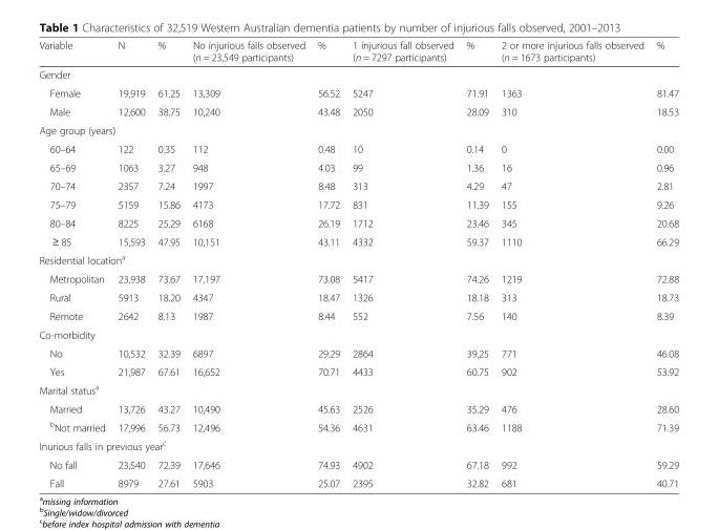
<table><thead><tr><td>Variable</td><td>N</td><td>%</td><td>No injurious falls observed (n = 23,549 participants)</td><td>%</td><td>1 injurious fall observed (n = 7297 participants)</td><td>%</td><td>2 or more injurious falls observed (n = 1673 participants)</td><td>%</td></tr></thead><tbody><tr><td colspan="9">Gender</td></tr><tr><td>Female</td><td>19,919</td><td>61.25</td><td>13,309</td><td>56.52</td><td>5247</td><td>71.91</td><td>1363</td><td>81.47</td></tr><tr><td>Male</td><td>12,600</td><td>38.75</td><td>10,240</td><td>43.48</td><td>2050</td><td>28.09</td><td>310</td><td>18.53</td></tr><tr><td colspan="9">Age group (years)</td></tr><tr><td>60–64</td><td>122</td><td>0.35</td><td>112</td><td>0.48</td><td>10</td><td>0.14</td><td>0</td><td>0.00</td></tr><tr><td>65–69</td><td>1063</td><td>3.27</td><td>948</td><td>4.03</td><td>99</td><td>1.36</td><td>16</td><td>0.96</td></tr><tr><td>70–74</td><td>2357</td><td>7.24</td><td>1997</td><td>8.48</td><td>313</td><td>4.29</td><td>47</td><td>2.81</td></tr><tr><td>75–79</td><td>5159</td><td>15.86</td><td>4173</td><td>17.72</td><td>831</td><td>11.39</td><td>155</td><td>9.26</td></tr><tr><td>80–84</td><td>8225</td><td>25.29</td><td>6168</td><td>26.19</td><td>1712</td><td>23.46</td><td>345</td><td>20.68</td></tr><tr><td>≥ 85</td><td>15,593</td><td>47.95</td><td>10,151</td><td>43.11</td><td>4332</td><td>59.37</td><td>1110</td><td>66.29</td></tr><tr><td colspan="9">Residential location<sup>a</sup></td></tr><tr><td>Metropolitan</td><td>23,938</td><td>73.67</td><td>17,197</td><td>73.08</td><td>5417</td><td>74.26</td><td>1219</td><td>72.88</td></tr><tr><td>Rural</td><td>5913</td><td>18.20</td><td>4347</td><td>18.47</td><td>1326</td><td>18.18</td><td>313</td><td>18.73</td></tr><tr><td>Remote</td><td>2642</td><td>8.13</td><td>1987</td><td>8.44</td><td>552</td><td>7.56</td><td>140</td><td>8.39</td></tr><tr><td colspan="9">Co-morbidity</td></tr><tr><td>No</td><td>10,532</td><td>32.39</td><td>6897</td><td>29.29</td><td>2864</td><td>39.25</td><td>771</td><td>46.08</td></tr><tr><td>Yes</td><td>21,987</td><td>67.61</td><td>16,652</td><td>70.71</td><td>4433</td><td>60.75</td><td>902</td><td>53.92</td></tr><tr><td colspan="9">Marital status<sup>a</sup></td></tr><tr><td>Married</td><td>13,726</td><td>43.27</td><td>10,490</td><td>45.63</td><td>2526</td><td>35.29</td><td>476</td><td>28.60</td></tr><tr><td><sup>b</sup>Not married</td><td>17,996</td><td>56.73</td><td>12,496</td><td>54.36</td><td>4631</td><td>63.46</td><td>1188</td><td>71.39</td></tr><tr><td colspan="9">Inurious falls in previous year<sup>c</sup></td></tr><tr><td>No fall</td><td>23,540</td><td>72.39</td><td>17,646</td><td>74.93</td><td>4902</td><td>67.18</td><td>992</td><td>59.29</td></tr><tr><td>Fall</td><td>8979</td><td>27.61</td><td>5903</td><td>25.07</td><td>2395</td><td>32.82</td><td>681</td><td>40.71</td></tr></tbody></table>